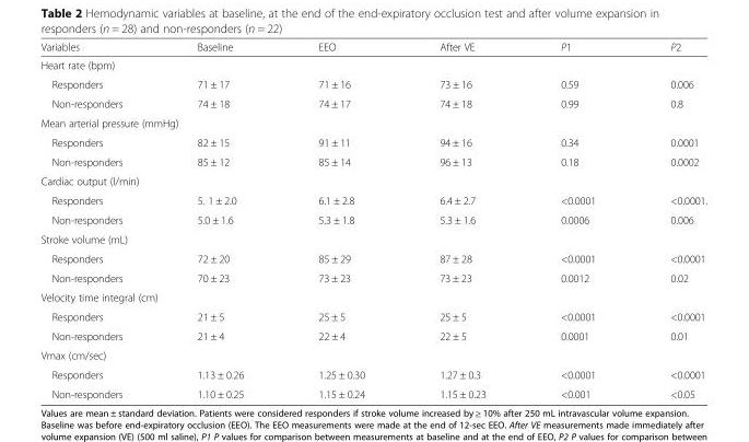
<table><thead><tr><td>Variables</td><td>Baseline</td><td>EEO</td><td>After VE</td><td>P1</td><td>P2</td></tr></thead><tbody><tr><td colspan="6">Heart rate (bpm)</td></tr><tr><td>Responders</td><td>71 ± 17</td><td>71 ± 16</td><td>73 ± 16</td><td>0.59</td><td>0.006</td></tr><tr><td>Non-responders</td><td>74 ± 18</td><td>74 ± 17</td><td>74 ± 18</td><td>0.99</td><td>0.8</td></tr><tr><td colspan="6">Mean arterial pressure (mmHg)</td></tr><tr><td>Responders</td><td>82 ± 15</td><td>91 ± 11</td><td>94 ± 16</td><td>0.34</td><td>0.0001</td></tr><tr><td>Non-responders</td><td>85 ± 12</td><td>85 ± 14</td><td>96 ± 13</td><td>0.18</td><td>0.0002</td></tr><tr><td colspan="6">Cardiac output (l/min)</td></tr><tr><td>Responders</td><td>5. 1 ± 2.0</td><td>6.1 ± 2.8</td><td>6.4 ± 2.7</td><td>&lt;0.0001</td><td>&lt;0.0001.</td></tr><tr><td>Non-responders</td><td>5.0 ± 1.6</td><td>5.3 ± 1.8</td><td>5.3 ± 1.6</td><td>0.0006</td><td>0.006</td></tr><tr><td colspan="6">Stroke volume (mL)</td></tr><tr><td>Responders</td><td>72 ± 20</td><td>85 ± 29</td><td>87 ± 28</td><td>&lt;0.0001</td><td>&lt;0.0001</td></tr><tr><td>Non-responders</td><td>70 ± 23</td><td>73 ± 23</td><td>73 ± 23</td><td>0.0012</td><td>0.02</td></tr><tr><td colspan="6">Velocity time integral (cm)</td></tr><tr><td>Responders</td><td>21 ± 5</td><td>25 ± 5</td><td>25 ± 5</td><td>&lt;0.0001</td><td>&lt;0.0001</td></tr><tr><td>Non-responders</td><td>21 ± 4</td><td>22 ± 4</td><td>22 ± 5</td><td>0.0001</td><td>0.01</td></tr><tr><td colspan="6">Vmax (cm/sec)</td></tr><tr><td>Responders</td><td>1.13 ± 0.26</td><td>1.25 ± 0.30</td><td>1.27 ± 0.3</td><td>&lt;0.0001</td><td>&lt;0.0001</td></tr><tr><td>Non-responders</td><td>1.10 ± 0.25</td><td>1.15 ± 0.24</td><td>1.15 ± 0.23</td><td>&lt;0.001</td><td>&lt;0.05</td></tr></tbody></table>